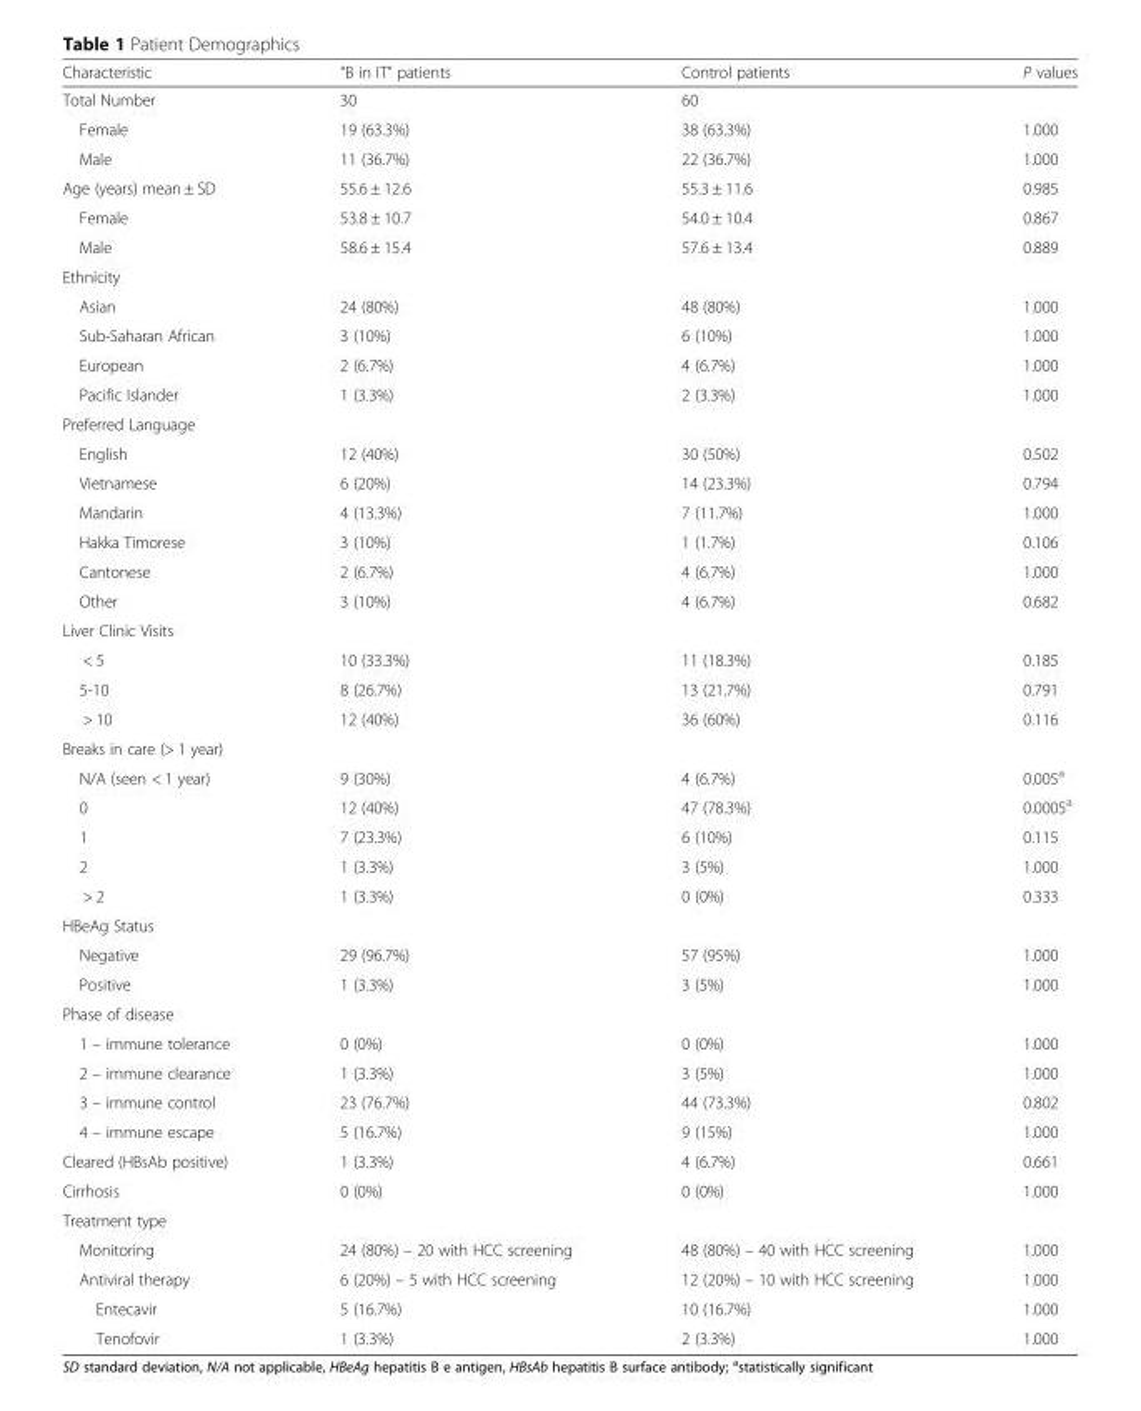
<table><thead><tr><td>Characteristic</td><td>“B in IT” patients</td><td>Control patients</td><td>P values</td></tr></thead><tbody><tr><td>Total Number</td><td>30</td><td>60</td><td></td></tr><tr><td>Female</td><td>19 (63.3%)</td><td>38 (63.3%)</td><td>1.000</td></tr><tr><td>Male</td><td>11 (36.7%)</td><td>22 (36.7%)</td><td>1.000</td></tr><tr><td>Age (years) mean ± SD</td><td>55.6 ± 12.6</td><td>55.3 ± 11.6</td><td>0.985</td></tr><tr><td>Female</td><td>53.8 ± 10.7</td><td>54.0 ± 10.4</td><td>0.867</td></tr><tr><td>Male</td><td>58.6 ± 15.4</td><td>57.6 ± 13.4</td><td>0.889</td></tr><tr><td colspan="4">Ethnicity</td></tr><tr><td>Asian</td><td>24 (80%)</td><td>48 (80%)</td><td>1.000</td></tr><tr><td>Sub-Saharan African</td><td>3 (10%)</td><td>6 (10%)</td><td>1.000</td></tr><tr><td>European</td><td>2 (6.7%)</td><td>4 (6.7%)</td><td>1.000</td></tr><tr><td>Pacific Islander</td><td>1 (3.3%)</td><td>2 (3.3%)</td><td>1.000</td></tr><tr><td colspan="4">Preferred Language</td></tr><tr><td>English</td><td>12 (40%)</td><td>30 (50%)</td><td>0.502</td></tr><tr><td>Vietnamese</td><td>6 (20%)</td><td>14 (23.3%)</td><td>0.794</td></tr><tr><td>Mandarin</td><td>4 (13.3%)</td><td>7 (11.7%)</td><td>1.000</td></tr><tr><td>Hakka Timorese</td><td>3 (10%)</td><td>1 (1.7%)</td><td>0.106</td></tr><tr><td>Cantonese</td><td>2 (6.7%)</td><td>4 (6.7%)</td><td>1.000</td></tr><tr><td>Other</td><td>3 (10%)</td><td>4 (6.7%)</td><td>0.682</td></tr><tr><td colspan="4">Liver Clinic Visits</td></tr><tr><td>&lt; 5</td><td>10 (33.3%)</td><td>11 (18.3%)</td><td>0.185</td></tr><tr><td>5-10</td><td>8 (26.7%)</td><td>13 (21.7%)</td><td>0.791</td></tr><tr><td>&gt; 10</td><td>12 (40%)</td><td>36 (60%)</td><td>0.116</td></tr><tr><td colspan="4">Breaks in care (&gt; 1 year)</td></tr><tr><td>N/A (seen &lt; 1 year)</td><td>9 (30%)</td><td>4 (6.7%)</td><td>0.005<sup>a</sup></td></tr><tr><td>0</td><td>12 (40%)</td><td>47 (78.3%)</td><td>0.0005<sup>a</sup></td></tr><tr><td>1</td><td>7 (23.3%)</td><td>6 (10%)</td><td>0.115</td></tr><tr><td>2</td><td>1 (3.3%)</td><td>3 (5%)</td><td>1.000</td></tr><tr><td>&gt; 2</td><td>1 (3.3%)</td><td>0 (0%)</td><td>0.333</td></tr><tr><td colspan="4">HBeAg Status</td></tr><tr><td>Negative</td><td>29 (96.7%)</td><td>57 (95%)</td><td>1.000</td></tr><tr><td>Positive</td><td>1 (3.3%)</td><td>3 (5%)</td><td>1.000</td></tr><tr><td colspan="4">Phase of disease</td></tr><tr><td>1 – immune tolerance</td><td>0 (0%)</td><td>0 (0%)</td><td>1.000</td></tr><tr><td>2 – immune clearance</td><td>1 (3.3%)</td><td>3 (5%)</td><td>1.000</td></tr><tr><td>3 – immune control</td><td>23 (76.7%)</td><td>44 (73.3%)</td><td>0.802</td></tr><tr><td>4 – immune escape</td><td>5 (16.7%)</td><td>9 (15%)</td><td>1.000</td></tr><tr><td>Cleared (HBsAb positive)</td><td>1 (3.3%)</td><td>4 (6.7%)</td><td>0.661</td></tr><tr><td>Cirrhosis</td><td>0 (0%)</td><td>0 (0%)</td><td>1.000</td></tr><tr><td colspan="4">Treatment type</td></tr><tr><td>Monitoring</td><td>24 (80%) – 20 with HCC screening</td><td>48 (80%) – 40 with HCC screening</td><td>1.000</td></tr><tr><td>Antiviral therapy</td><td>6 (20%) – 5 with HCC screening</td><td>12 (20%) – 10 with HCC screening</td><td>1.000</td></tr><tr><td>Entecavir</td><td>5 (16.7%)</td><td>10 (16.7%)</td><td>1.000</td></tr><tr><td>Tenofovir</td><td>1 (3.3%)</td><td>2 (3.3%)</td><td>1.000</td></tr></tbody></table>